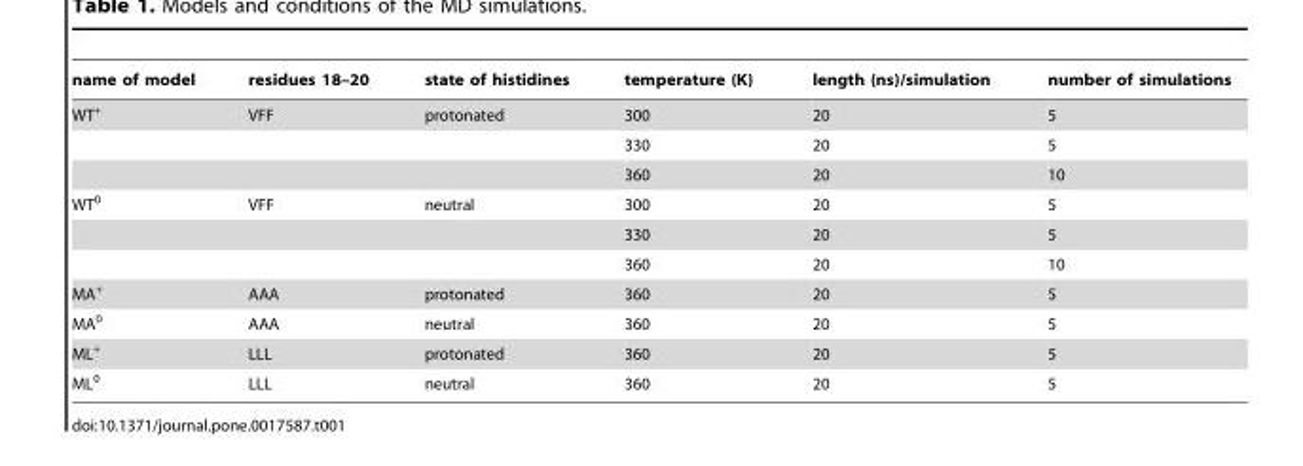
<table><thead><tr><td>name of model</td><td>residues 18–20</td><td>state of histidines</td><td>temperature (K)</td><td>length (ns)/simulation</td><td>number of simulations</td></tr></thead><tbody><tr><td rowspan="3">WT<sup>+</sup></td><td>VFF</td><td>protonated</td><td>300</td><td>20</td><td>5</td></tr><tr><td></td><td></td><td>330</td><td>20</td><td>5</td></tr><tr><td></td><td></td><td>360</td><td>20</td><td>10</td></tr><tr><td rowspan="3">WT<sup>0</sup></td><td>VFF</td><td>neutral</td><td>300</td><td>20</td><td>5</td></tr><tr><td></td><td></td><td>330</td><td>20</td><td>5</td></tr><tr><td></td><td></td><td>360</td><td>20</td><td>10</td></tr><tr><td>MA<sup>+</sup></td><td>AAA</td><td>protonated</td><td>360</td><td>20</td><td>5</td></tr><tr><td>MA<sup>0</sup></td><td>AAA</td><td>neutral</td><td>360</td><td>20</td><td>5</td></tr><tr><td>ML<sup>+</sup></td><td>LLL</td><td>protonated</td><td>360</td><td>20</td><td>5</td></tr><tr><td>ML<sup>0</sup></td><td>LLL</td><td>neutral</td><td>360</td><td>20</td><td>5</td></tr></tbody></table>